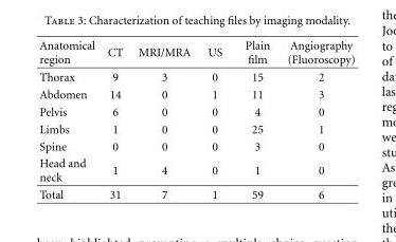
<table><thead><tr><td>Anatomical region</td><td>CT</td><td>MRI/MRA</td><td>US</td><td>Plain film</td><td>Angiography (Fluoroscopy)</td></tr></thead><tbody><tr><td>Thorax</td><td>9</td><td>3</td><td>0</td><td>15</td><td>2</td></tr><tr><td>Abdomen</td><td>14</td><td>0</td><td>1</td><td>11</td><td>3</td></tr><tr><td>Pelvis</td><td>6</td><td>0</td><td>0</td><td>4</td><td>0</td></tr><tr><td>Limbs</td><td>1</td><td>0</td><td>0</td><td>25</td><td>1</td></tr><tr><td>Spine</td><td>0</td><td>0</td><td>0</td><td>3</td><td>0</td></tr><tr><td>Head and neck</td><td>1</td><td>4</td><td>0</td><td>1</td><td>0</td></tr><tr><td>Total</td><td>31</td><td>7</td><td>1</td><td>59</td><td>6</td></tr></tbody></table>